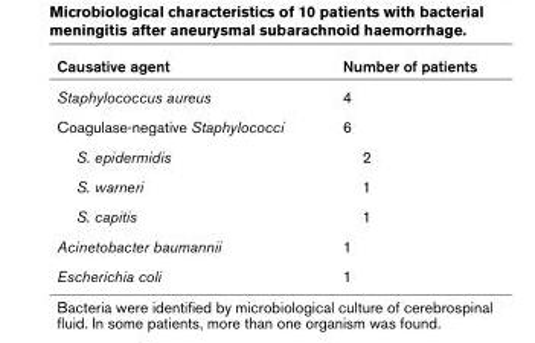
<table><thead><tr><td>Causative agent</td><td>Number of patients</td></tr></thead><tbody><tr><td>Staphylococcus aureus</td><td>4</td></tr><tr><td>Coagulase-negative Staphylococci</td><td>6</td></tr><tr><td>S. epidermidis</td><td>2</td></tr><tr><td>S. warneri</td><td>1</td></tr><tr><td>S. capitis</td><td>1</td></tr><tr><td>Acinetobacter baumannii</td><td>1</td></tr><tr><td>Escherichia coli</td><td>1</td></tr></tbody></table>